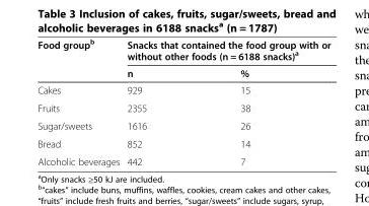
<table><thead><tr><td rowspan="2">Food group<sup>b</sup></td><td colspan="2">Snacks that contained the food group with or without other foods (n = 6188 snacks)<sup>a</sup></td></tr><tr><td>n</td><td>%</td></tr></thead><tbody><tr><td>Cakes</td><td>929</td><td>15</td></tr><tr><td>Fruits</td><td>2355</td><td>38</td></tr><tr><td>Sugar/sweets</td><td>1616</td><td>26</td></tr><tr><td>Bread</td><td>852</td><td>14</td></tr><tr><td>Alcoholic beverages</td><td>442</td><td>7</td></tr></tbody></table>